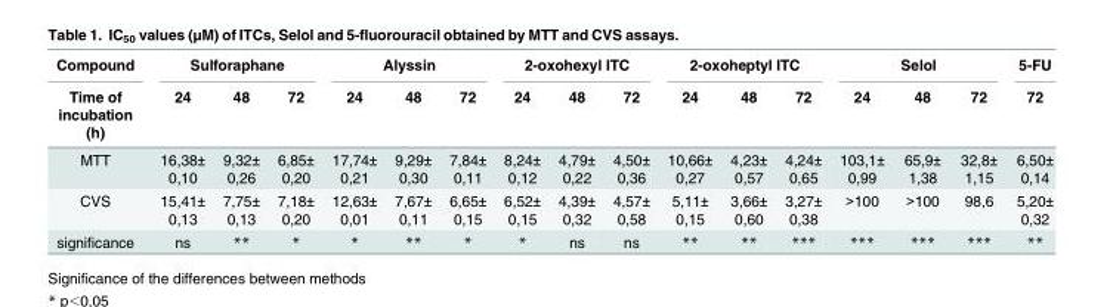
<table><thead><tr><td rowspan="2">Compound Time of incubation (h)</td><td colspan="3">Sulforaphane</td><td colspan="3">Alyssin</td><td colspan="3">2-oxohexyl ITC</td><td colspan="3">2-oxoheptyl ITC</td><td colspan="3">Selol</td><td rowspan="2">5-FU 72</td></tr><tr><td>24</td><td>48</td><td>72</td><td>24</td><td>48</td><td>72</td><td>24</td><td>48</td><td>72</td><td>24</td><td>48</td><td>72</td><td>24</td><td>48</td><td>72</td></tr></thead><tbody><tr><td>MTT</td><td>16,38± 0,10</td><td>9,32± 0,26</td><td>6,85± 0,20</td><td>17,74± 0,21</td><td>9,29± 0,30</td><td>7,84± 0,11</td><td>8,24± 0,12</td><td>4,79± 0,22</td><td>4,50± 0,36</td><td>10,66± 0,27</td><td>4,23± 0,57</td><td>4,24± 0,65</td><td>103,1± 0,99</td><td>65,9± 1,38</td><td>32,8± 1,15</td><td>6,50± 0,14</td></tr><tr><td>CVS</td><td>15,41± 0,13</td><td>7,75± 0,13</td><td>7,18± 0,20</td><td>12,63± 0,01</td><td>7,67± 0,11</td><td>6,65± 0,15</td><td>6,52± 0,15</td><td>4,39± 0,32</td><td>4,57± 0,58</td><td>5,11± 0,15</td><td>3,66± 0,60</td><td>3,27± 0,38</td><td>&gt;100</td><td>&gt;100</td><td>98,6</td><td>5,20± 0,32</td></tr><tr><td>significance</td><td>ns</td><td>**</td><td>*</td><td>*</td><td>**</td><td>*</td><td>*</td><td>ns</td><td>ns</td><td>**</td><td>**</td><td>***</td><td>***</td><td>***</td><td>***</td><td>**</td></tr></tbody></table>